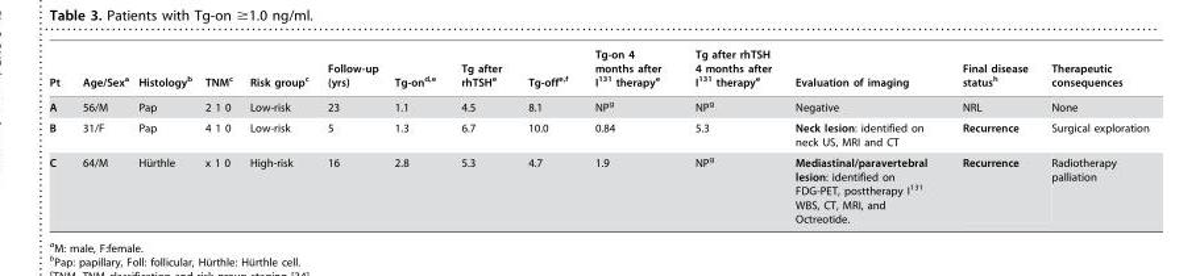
<table><thead><tr><td>Pt</td><td>Age/Sex<sup>a</sup></td><td>Histology<sup>b</sup></td><td>TNM<sup>c</sup></td><td>Risk group<sup>c</sup></td><td>Follow-up (yrs)</td><td>Tg-on<sup>d</sup>,<sup>e</sup></td><td>Tg after rhTSH<sup>e</sup></td><td>Tg-off<sup>e</sup>,<sup>f</sup></td><td>Tg-on 4 months after I<sup>131</sup> therapy<sup>e</sup></td><td>Tg after rhTSH 4 months after I<sup>131</sup> therapy<sup>e</sup></td><td>Evaluation of imaging</td><td>Final disease status<sup>h</sup></td><td>Therapeutic consequences</td></tr></thead><tbody><tr><td>A</td><td>56/M</td><td>Pap</td><td>2 1 0</td><td>Low-risk</td><td>23</td><td>1.1</td><td>4.5</td><td>8.1</td><td>NP<sup>g</sup></td><td>NP<sup>g</sup></td><td>Negative</td><td>NRL</td><td>None</td></tr><tr><td>B</td><td>31/F</td><td>Pap</td><td>4 1 0</td><td>Low-risk</td><td>5</td><td>1.3</td><td>6.7</td><td>10.0</td><td>0.84</td><td>5.3</td><td>Neck lesion: identified on neck US, MRI and CT</td><td>Recurrence</td><td>Surgical exploration</td></tr><tr><td>C</td><td>64/M</td><td>Hu¨rthle</td><td>x 1 0</td><td>High-risk</td><td>16</td><td>2.8</td><td>5.3</td><td>4.7</td><td>1.9</td><td>NP<sup>g</sup></td><td>Mediastinal/paravertebral lesion: identified on FDG-PET, posttherapy I<sup>131</sup> WBS, CT, MRI, and Octreotide.</td><td>Recurrence</td><td>Radiotherapy palliation</td></tr></tbody></table>